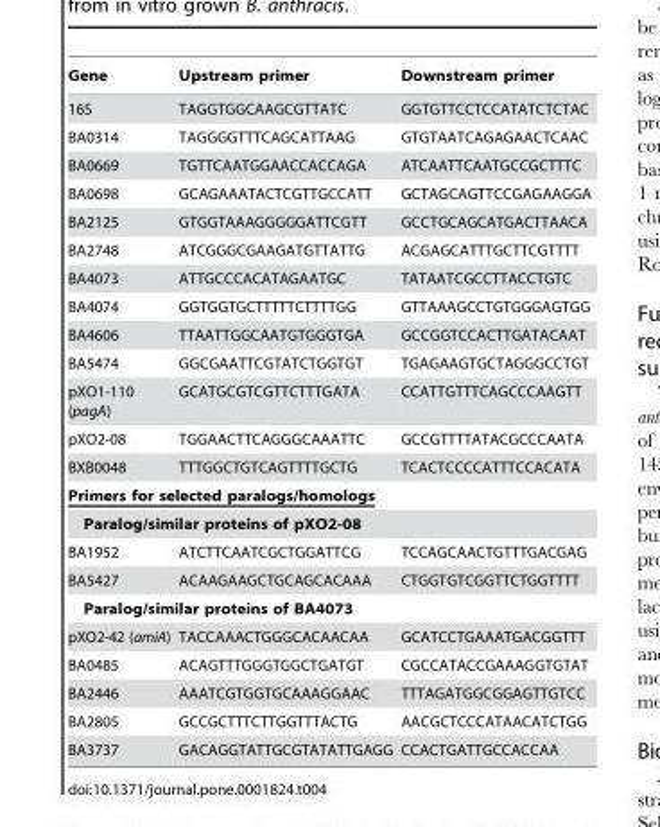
<table><thead><tr><td>Gene</td><td>Upstream primer</td><td>Downstream primer</td></tr></thead><tbody><tr><td>16S</td><td>TAGGTGGCAAGCGTTATC</td><td>GGTGTTCCTCCATATCTCTAC</td></tr><tr><td>BA0314</td><td>TAGGGGTTTCAGCATTAAG</td><td>GTGTAATCAGAGAACTCAAC</td></tr><tr><td>BA0669</td><td>TGTTCAATGGAACCACCAGA</td><td>ATCAATTCAATGCCGCTTTC</td></tr><tr><td>BA0698</td><td>GCAGAAATACTCGTTGCCATT</td><td>GCTAGCAGTTCCGAGAAGGA</td></tr><tr><td>BA2125</td><td>GTGGTAAAGGGGGATTCGTT</td><td>GCCTGCAGCATGACTTAACA</td></tr><tr><td>BA2748</td><td>ATCGGGCGAAGATGTTATTG</td><td>ACGAGCATTTGCTTCGTTTT</td></tr><tr><td>BA4073</td><td>ATTGCCCACATAGAATGC</td><td>TATAATCGCCTTACCTGTC</td></tr><tr><td>BA4074</td><td>GGTGGTGCTTTTTCTTTTGG</td><td>GTTAAAGCCTGTGGGAGTGG</td></tr><tr><td>BA4606</td><td>TTAATTGGCAATGTGGGTGA</td><td>GCCGGTCCACTTGATACAAT</td></tr><tr><td>BA5474</td><td>GGCGAATTCGTATCTGGTGT</td><td>TGAGAAGTGCTAGGGCCTGT</td></tr><tr><td>pXO1-110 (pagA)</td><td>GCATGCGTCGTTCTTTGATA</td><td>CCATTGTTTCAGCCCAAGTT</td></tr><tr><td>pXO2-08</td><td>TGGAACTTCAGGGCAAATTC</td><td>GCCGTTTTATACGCCCAATA</td></tr><tr><td>BXB0048</td><td>TTTGGCTGTCAGTTTTGCTG</td><td>TCACTCCCCATTTCCACATA</td></tr><tr><td colspan="3">Primers for selected paralogs/homologs</td></tr><tr><td colspan="3">Paralog/similar proteins of pXO2-08</td></tr><tr><td>BA1952</td><td>ATCTTCAATCGCTGGATTCG</td><td>TCCAGCAACTGTTTGACGAG</td></tr><tr><td>BA5427</td><td>ACAAGAAGCTGCAGCACAAA</td><td>CTGGTGTCGGTTCTGGTTTT</td></tr><tr><td colspan="3">Paralog/similar proteins of BA4073</td></tr><tr><td>pXO2-42 (amiA)</td><td>TACCAAACTGGGCACAACAA</td><td>GCATCCTGAAATGACGGTTT</td></tr><tr><td>BA0485</td><td>ACAGTTTGGGTGGCTGATGT</td><td>CGCCATACCGAAAGGTGTAT</td></tr><tr><td>BA2446</td><td>AAATCGTGGTGCAAAGGAAC</td><td>TTTAGATGGCGGAGTTGTCC</td></tr><tr><td>BA2805</td><td>GCCGCTTTCTTGGTTTACTG</td><td>AACGCTCCCATAACATCTGG</td></tr><tr><td>BA3737</td><td>GACAGGTATTGCGTATATTGAGG</td><td>CCACTGATTGCCACCAA</td></tr></tbody></table>